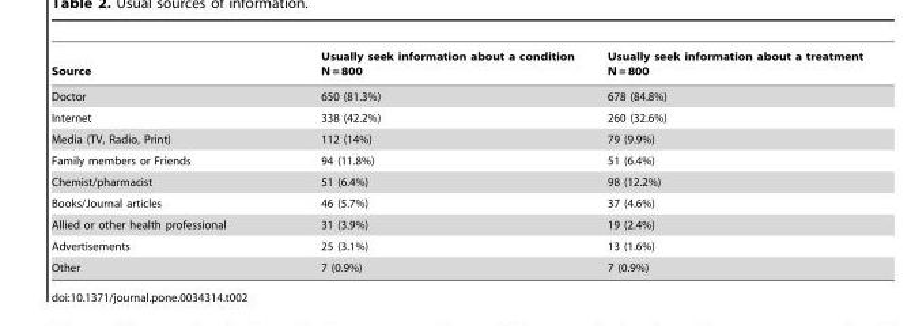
<table><thead><tr><td>Source</td><td>Usually seek information about a condition N = 800</td><td>Usually seek information about a treatment N = 800</td></tr></thead><tbody><tr><td>Doctor</td><td>650 (81.3%)</td><td>678 (84.8%)</td></tr><tr><td>Internet</td><td>338 (42.2%)</td><td>260 (32.6%)</td></tr><tr><td>Media (TV, Radio, Print)</td><td>112 (14%)</td><td>79 (9.9%)</td></tr><tr><td>Family members or Friends</td><td>94 (11.8%)</td><td>51 (6.4%)</td></tr><tr><td>Chemist/pharmacist</td><td>51 (6.4%)</td><td>98 (12.2%)</td></tr><tr><td>Books/Journal articles</td><td>46 (5.7%)</td><td>37 (4.6%)</td></tr><tr><td>Allied or other health professional</td><td>31 (3.9%)</td><td>19 (2.4%)</td></tr><tr><td>Advertisements</td><td>25 (3.1%)</td><td>13 (1.6%)</td></tr><tr><td>Other</td><td>7 (0.9%)</td><td>7 (0.9%)</td></tr></tbody></table>